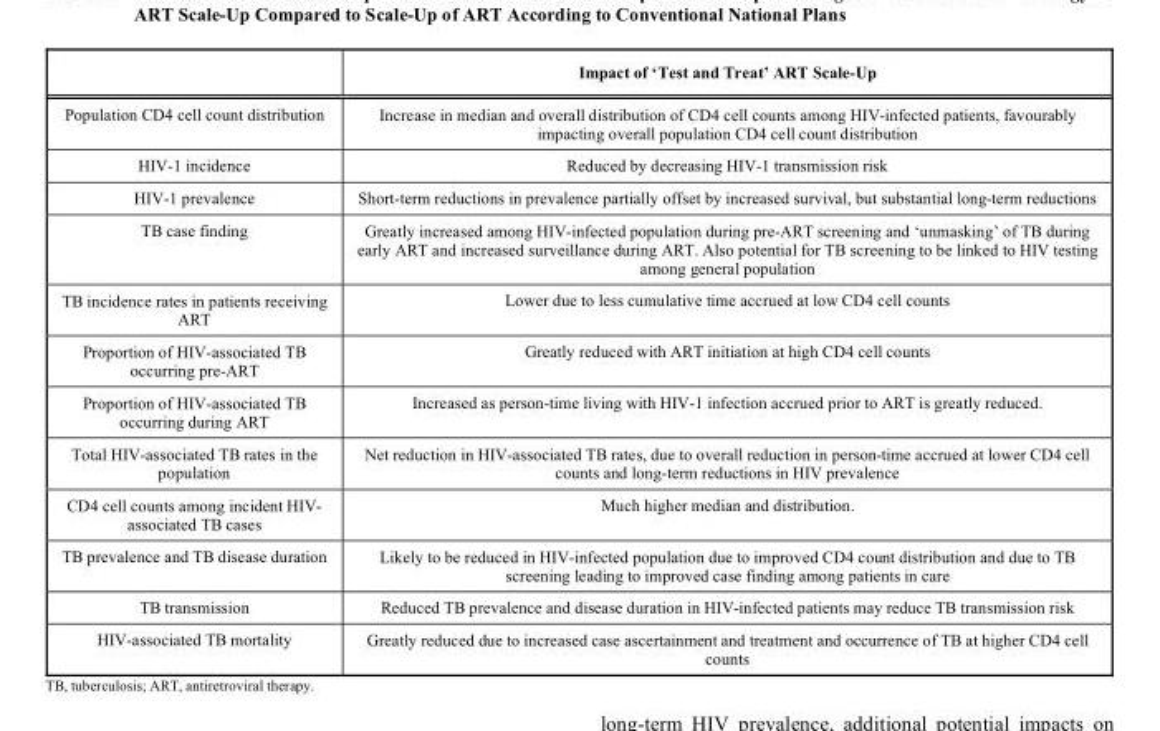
<table><thead><tr><td></td><td>Impact of ‘Test and Treat’ ART Scale-Up</td></tr></thead><tbody><tr><td>Population CD4 cell count distribution</td><td>Increase in median and overall distribution of CD4 cell counts among HIV-infected patients, favourably impacting overall population CD4 cell count distribution</td></tr><tr><td>HIV-1 incidence</td><td>Reduced by decreasing HIV-1 transmission risk</td></tr><tr><td>HIV-1 prevalence</td><td>Short-term reductions in prevalence partially offset by increased survival, but substantial long-term reductions</td></tr><tr><td>TB case finding</td><td>Greatly increased among HIV-infected population during pre-ART screening and ‘unmasking’ of TB during early ART and increased surveillance during ART. Also potential for TB screening to be linked to HIV testing among general population</td></tr><tr><td>TB incidence rates in patients receiving ART</td><td>Lower due to less cumulative time accrued at low CD4 cell counts</td></tr><tr><td>Proportion of HIV-associated TB occurring pre-ART</td><td>Greatly reduced with ART initiation at high CD4 cell counts</td></tr><tr><td>Proportion of HIV-associated TB occurring during ART</td><td>Increased as person-time living with HIV-1 infection accrued prior to ART is greatly reduced.</td></tr><tr><td>Total HIV-associated TB rates in the population</td><td>Net reduction in HIV-associated TB rates, due to overall reduction in person-time accrued at lower CD4 cell counts and long-term reductions in HIV prevalence</td></tr><tr><td>CD4 cell counts among incident HIV- associated TB cases</td><td>Much higher median and distribution.</td></tr><tr><td>TB prevalence and TB disease duration</td><td>Likely to be reduced in HIV-infected population due to improved CD4 count distribution and due to TB screening leading to improved case finding among patients in care</td></tr><tr><td>TB transmission</td><td>Reduced TB prevalence and disease duration in HIV-infected patients may reduce TB transmission risk</td></tr><tr><td>HIV-associated TB mortality</td><td>Greatly reduced due to increased case ascertainment and treatment and occurrence of TB at higher CD4 cell counts</td></tr></tbody></table>